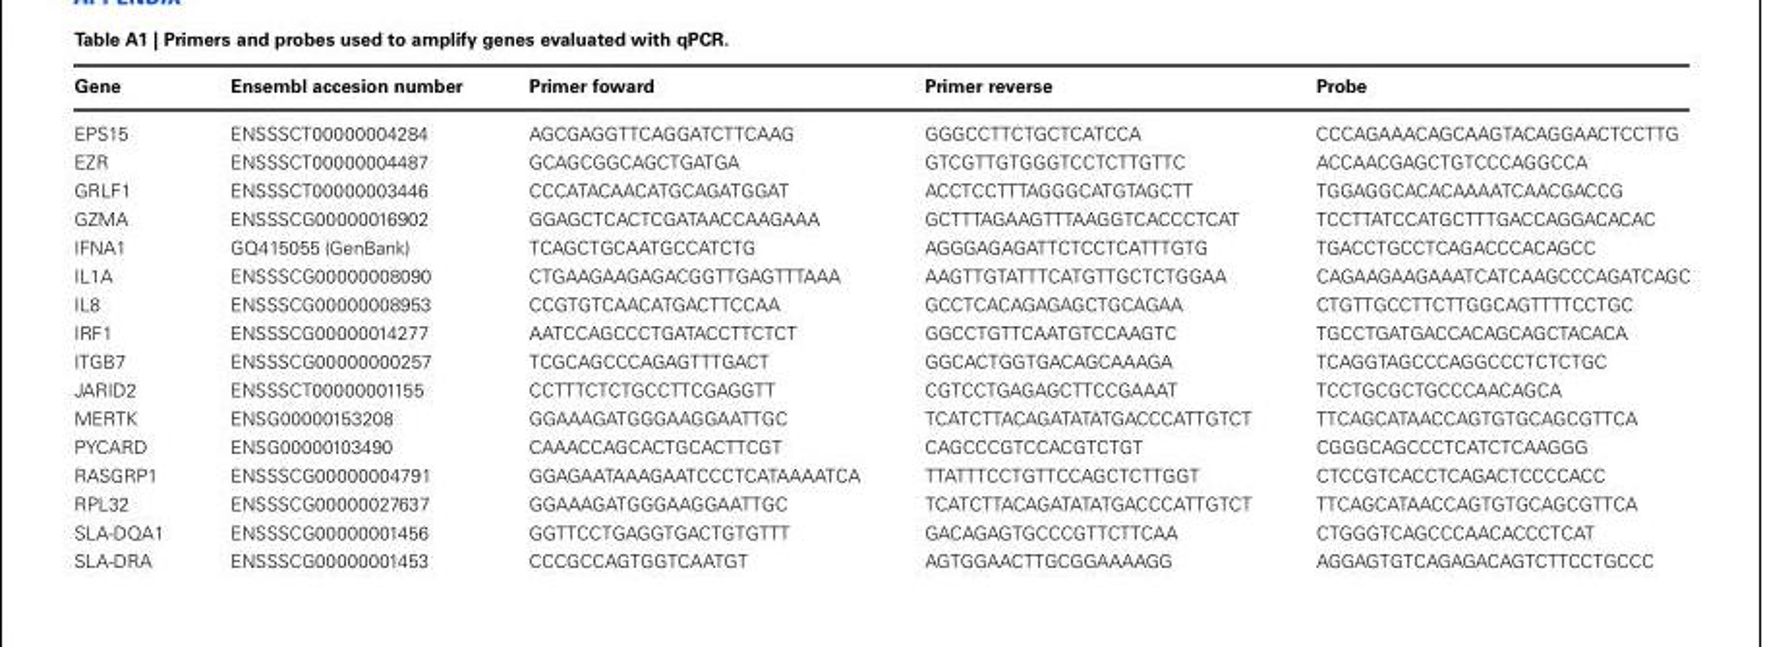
<table><thead><tr><td>Gene</td><td>Ensembl accesion number</td><td>Primer foward</td><td>Primer reverse</td><td>Probe</td></tr></thead><tbody><tr><td>EPS15</td><td>ENSSSCT00000004284</td><td>AGCGAGGTTCAGGATCTTCAAG</td><td>GGGCCTTCTGCTCATCCA</td><td>CCCAGAAACAGCAAGTACAGGAACTCCTTG</td></tr><tr><td>EZR</td><td>ENSSSCT00000004487</td><td>GCAGCGGCAGCTGATGA</td><td>GTCGTTGTGGGTCCTCTTGTTC</td><td>ACCAACGAGCTGTCCCAGGCCA</td></tr><tr><td>GRLF1</td><td>ENSSSCT00000003446</td><td>CCCATACAACATGCAGATGGAT</td><td>ACCTCCTTTAGGGCATGTAGCTT</td><td>TGGAGGCACACAAAATCAACGACCG</td></tr><tr><td>GZMA</td><td>ENSSSCG00000016902</td><td>GGAGCTCACTCGATAACCAAGAAA</td><td>GCTTTAGAAGTTTAAGGTCACCCTCAT</td><td>TCCTTATCCATGCTTTGACCAGGACACAC</td></tr><tr><td>IFNA1</td><td>GQ415055 (GenBank)</td><td>TCAGCTGCAATGCCATCTG</td><td>AGGGAGAGATTCTCCTCATTTGTG</td><td>TGACCTGCCTCAGACCCACAGCC</td></tr><tr><td>IL1A</td><td>ENSSSCG00000008090</td><td>CTGAAGAAGAGACGGTTGAGTTTAAA</td><td>AAGTTGTATTTCATGTTGCTCTGGAA</td><td>CAGAAGAAGAAATCATCAAGCCCAGATCAGC</td></tr><tr><td>IL8</td><td>ENSSSCG00000008953</td><td>CCGTGTCAACATGACTTCCAA</td><td>GCCTCACAGAGAGCTGCAGAA</td><td>CTGTTGCCTTCTTGGCAGTTTTCCTGC</td></tr><tr><td>IRF1</td><td>ENSSSCG00000014277</td><td>AATCCAGCCCTGATACCTTCTCT</td><td>GGCCTGTTCAATGTCCAAGTC</td><td>TGCCTGATGACCACAGCAGCTACACA</td></tr><tr><td>ITGB7</td><td>ENSSSCG00000000257</td><td>TCGCAGCCCAGAGTTTGACT</td><td>GGCACTGGTGACAGCAAAGA</td><td>TCAGGTAGCCCAGGCCCTCTCTGC</td></tr><tr><td>JARID2</td><td>ENSSSCT00000001155</td><td>CCTTTCTCTGCCTTCGAGGTT</td><td>CGTCCTGAGAGCTTCCGAAAT</td><td>TCCTGCGCTGCCCAACAGCA</td></tr><tr><td>MERTK</td><td>ENSG00000153208</td><td>GGAAAGATGGGAAGGAATTGC</td><td>TCATCTTACAGATATATGACCCATTGTCT</td><td>TTCAGCATAACCAGTGTGCAGCGTTCA</td></tr><tr><td>PYCARD</td><td>ENSG00000103490</td><td>CAAACCAGCACTGCACTTCGT</td><td>CAGCCCGTCCACGTCTGT</td><td>CGGGCAGCCCTCATCTCAAGGG</td></tr><tr><td>RASGRP1</td><td>ENSSSCG00000004791</td><td>GGAGAATAAAGAATCCCTCATAAAATCA</td><td>TTATTTCCTGTTCCAGCTCTTGGT</td><td>CTCCGTCACCTCAGACTCCCCACC</td></tr><tr><td>RPL32</td><td>ENSSSCG00000027637</td><td>GGAAAGATGGGAAGGAATTGC</td><td>TCATCTTACAGATATATGACCCATTGTCT</td><td>TTCAGCATAACCAGTGTGCAGCGTTCA</td></tr><tr><td>SLA-DQA1</td><td>ENSSSCG00000001456</td><td>GGTTCCTGAGGTGACTGTGTTT</td><td>GACAGAGTGCCCGTTCTTCAA</td><td>CTGGGTCAGCCCAACACCCTCAT</td></tr><tr><td>SLA-DRA</td><td>ENSSSCG00000001453</td><td>CCCGCCAGTGGTCAATGT</td><td>AGTGGAACTTGCGGAAAAGG</td><td>AGGAGTGTCAGAGACAGTCTTCCTGCCC</td></tr></tbody></table>